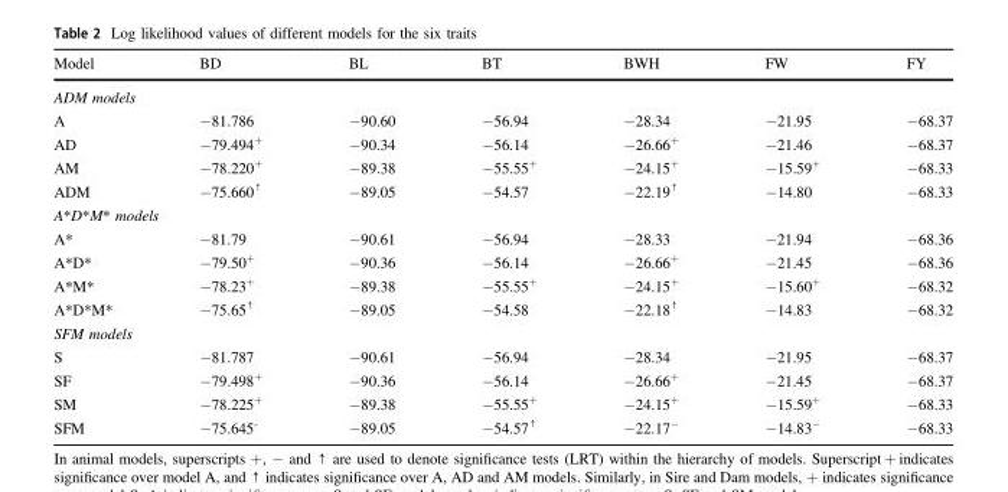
<table><thead><tr><td>Model</td><td>BD</td><td>BL</td><td>BT</td><td>BWH</td><td>FW</td><td>FY</td></tr></thead><tbody><tr><td colspan="7">ADM models</td></tr><tr><td>A</td><td>−81.786</td><td>−90.60</td><td>−56.94</td><td>−28.34</td><td>−21.95</td><td>−68.37</td></tr><tr><td>AD</td><td>−79.494<sup>+</sup></td><td>−90.34</td><td>−56.14</td><td>−26.66<sup>+</sup></td><td>−21.46</td><td>−68.37</td></tr><tr><td>AM</td><td>−78.220<sup>+</sup></td><td>−89.38</td><td>−55.55<sup>+</sup></td><td>−24.15<sup>+</sup></td><td>−15.59<sup>+</sup></td><td>−68.33</td></tr><tr><td>ADM</td><td>−75.660<sup>↑</sup></td><td>−89.05</td><td>−54.57</td><td>−22.19<sup>↑</sup></td><td>−14.80</td><td>−68.33</td></tr><tr><td colspan="7">A*D*M* models</td></tr><tr><td>A*</td><td>−81.79</td><td>−90.61</td><td>−56.94</td><td>−28.33</td><td>−21.94</td><td>−68.36</td></tr><tr><td>A*D*</td><td>−79.50<sup>+</sup></td><td>−90.36</td><td>−56.14</td><td>−26.66<sup>+</sup></td><td>−21.45</td><td>−68.36</td></tr><tr><td>A*M*</td><td>−78.23<sup>+</sup></td><td>−89.38</td><td>−55.55<sup>+</sup></td><td>−24.15<sup>+</sup></td><td>−15.60<sup>+</sup></td><td>−68.32</td></tr><tr><td>A*D*M*</td><td>−75.65<sup>↑</sup></td><td>−89.05</td><td>−54.58</td><td>−22.18<sup>↑</sup></td><td>−14.83</td><td>−68.32</td></tr><tr><td colspan="7">SFM models</td></tr><tr><td>S</td><td>−81.787</td><td>−90.61</td><td>−56.94</td><td>−28.34</td><td>−21.95</td><td>−68.37</td></tr><tr><td>SF</td><td>−79.498<sup>+</sup></td><td>−90.36</td><td>−56.14</td><td>−26.66<sup>+</sup></td><td>−21.45</td><td>−68.37</td></tr><tr><td>SM</td><td>−78.225<sup>+</sup></td><td>−89.38</td><td>−55.55<sup>+</sup></td><td>−24.15<sup>+</sup></td><td>−15.59<sup>+</sup></td><td>−68.33</td></tr><tr><td>SFM</td><td>−75.645<sup>-</sup></td><td>−89.05</td><td>−54.57<sup>↑</sup></td><td>−22.17<sup>−</sup></td><td>−14.83<sup>−</sup></td><td>−68.33</td></tr></tbody></table>